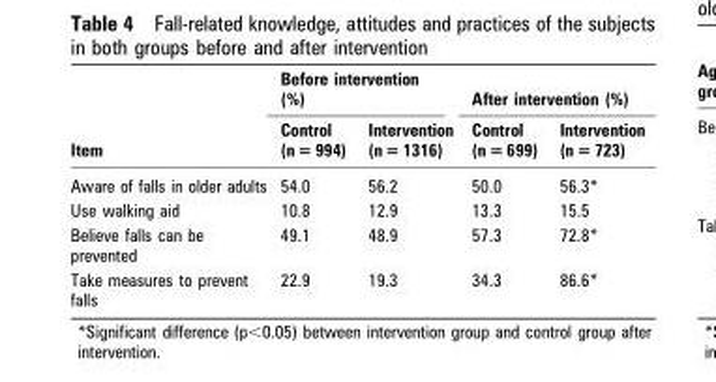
<table><thead><tr><td rowspan="2">Item</td><td colspan="2">Before intervention (%)</td><td colspan="2">After intervention (%)</td></tr><tr><td>Control (n = 994)</td><td>Intervention (n = 1316)</td><td>Control (n = 699)</td><td>Intervention (n = 723)</td></tr></thead><tbody><tr><td>Aware of falls in older adults</td><td>54.0</td><td>56.2</td><td>50.0</td><td>56.3*</td></tr><tr><td>Use walking aid</td><td>10.8</td><td>12.9</td><td>13.3</td><td>15.5</td></tr><tr><td>Believe falls can be prevented</td><td>49.1</td><td>48.9</td><td>57.3</td><td>72.8*</td></tr><tr><td>Take measures to prevent falls</td><td>22.9</td><td>19.3</td><td>34.3</td><td>86.6*</td></tr></tbody></table>